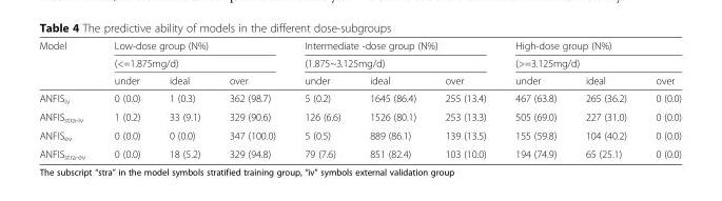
<table><thead><tr><td rowspan="3">Model</td><td rowspan="2" colspan="3">Low-dose group (N%) (&lt;=1.875mg/d)</td><td rowspan="2" colspan="3">Intermediate -dose group (N%) (1.875~3.125mg/d)</td><td rowspan="2" colspan="3">High-dose group (N%) (&gt;=3.125mg/d)</td></tr><tr></tr><tr><td>under</td><td>ideal</td><td>over</td><td>under</td><td>ideal</td><td>over</td><td>under</td><td>ideal</td><td>over</td></tr></thead><tbody><tr><td>ANFIS<sub>iv</sub></td><td>0 (0.0)</td><td>1 (0.3)</td><td>362 (98.7)</td><td>5 (0.2)</td><td>1645 (86.4)</td><td>255 (13.4)</td><td>467 (63.8)</td><td>265 (36.2)</td><td>0 (0.0)</td></tr><tr><td>ANFIS<sub>stra-iv</sub></td><td>1 (0.2)</td><td>33 (9.1)</td><td>329 (90.6)</td><td>126 (6.6)</td><td>1526 (80.1)</td><td>253 (13.3)</td><td>505 (69.0)</td><td>227 (31.0)</td><td>0 (0.0)</td></tr><tr><td>ANFIS<sub>ev</sub></td><td>0 (0.0)</td><td>0 (0.0)</td><td>347 (100.0)</td><td>5 (0.5)</td><td>889 (86.1)</td><td>139 (13.5)</td><td>155 (59.8)</td><td>104 (40.2)</td><td>0 (0.0)</td></tr><tr><td>ANFIS<sub>stra-ev</sub></td><td>0 (0.0)</td><td>18 (5.2)</td><td>329 (94.8)</td><td>79 (7.6)</td><td>851 (82.4)</td><td>103 (10.0)</td><td>194 (74.9)</td><td>65 (25.1)</td><td>0 (0.0)</td></tr></tbody></table>